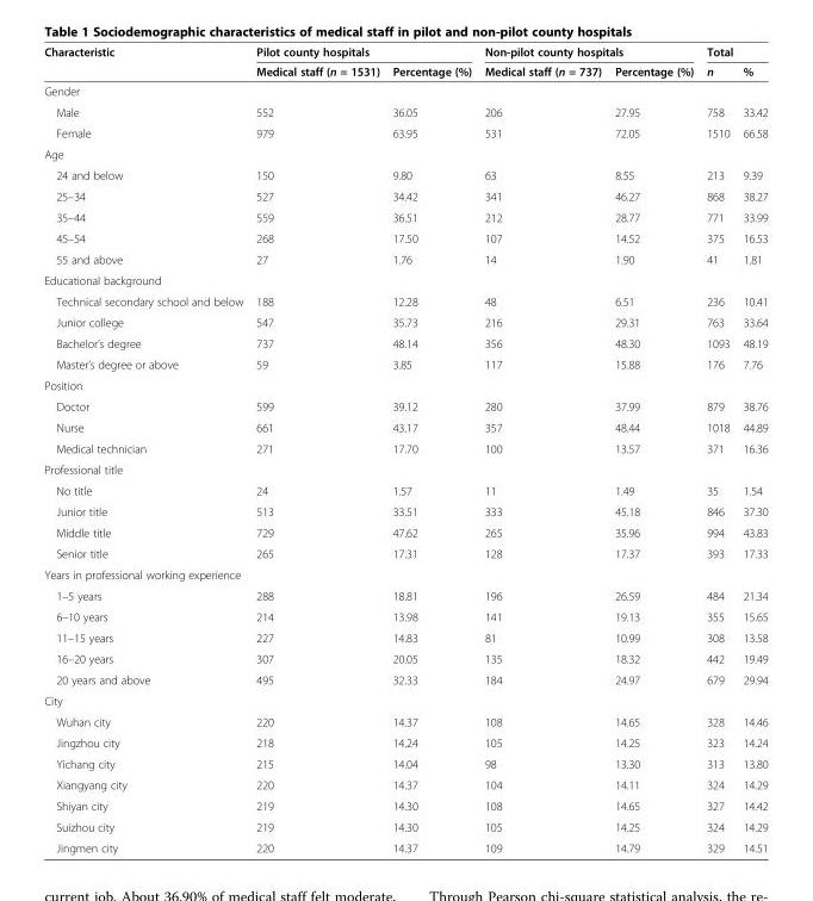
<table><thead><tr><td rowspan="2">Characteristic</td><td colspan="2">Pilot county hospitals</td><td colspan="2">Non-pilot county hospitals</td><td colspan="2">Total</td></tr><tr><td>Medical staff (n = 1531)</td><td>Percentage (%)</td><td>Medical staff (n = 737)</td><td>Percentage (%)</td><td>n</td><td>%</td></tr></thead><tbody><tr><td colspan="7">Gender</td></tr><tr><td>Male</td><td>552</td><td>36.05</td><td>206</td><td>27.95</td><td>758</td><td>33.42</td></tr><tr><td>Female</td><td>979</td><td>63.95</td><td>531</td><td>72.05</td><td>1510</td><td>66.58</td></tr><tr><td colspan="7">Age</td></tr><tr><td>24 and below</td><td>150</td><td>9.80</td><td>63</td><td>8.55</td><td>213</td><td>9.39</td></tr><tr><td>25–34</td><td>527</td><td>34.42</td><td>341</td><td>46.27</td><td>868</td><td>38.27</td></tr><tr><td>35–44</td><td>559</td><td>36.51</td><td>212</td><td>28.77</td><td>771</td><td>33.99</td></tr><tr><td>45–54</td><td>268</td><td>17.50</td><td>107</td><td>14.52</td><td>375</td><td>16.53</td></tr><tr><td>55 and above</td><td>27</td><td>1.76</td><td>14</td><td>1.90</td><td>41</td><td>1.81</td></tr><tr><td colspan="7">Educational background</td></tr><tr><td>Technical secondary school and below</td><td>188</td><td>12.28</td><td>48</td><td>6.51</td><td>236</td><td>10.41</td></tr><tr><td>Junior college</td><td>547</td><td>35.73</td><td>216</td><td>29.31</td><td>763</td><td>33.64</td></tr><tr><td>Bachelor’s degree</td><td>737</td><td>48.14</td><td>356</td><td>48.30</td><td>1093</td><td>48.19</td></tr><tr><td>Master’s degree or above</td><td>59</td><td>3.85</td><td>117</td><td>15.88</td><td>176</td><td>7.76</td></tr><tr><td colspan="7">Position</td></tr><tr><td>Doctor</td><td>599</td><td>39.12</td><td>280</td><td>37.99</td><td>879</td><td>38.76</td></tr><tr><td>Nurse</td><td>661</td><td>43.17</td><td>357</td><td>48.44</td><td>1018</td><td>44.89</td></tr><tr><td>Medical technician</td><td>271</td><td>17.70</td><td>100</td><td>13.57</td><td>371</td><td>16.36</td></tr><tr><td colspan="7">Professional title</td></tr><tr><td>No title</td><td>24</td><td>1.57</td><td>11</td><td>1.49</td><td>35</td><td>1.54</td></tr><tr><td>Junior title</td><td>513</td><td>33.51</td><td>333</td><td>45.18</td><td>846</td><td>37.30</td></tr><tr><td>Middle title</td><td>729</td><td>47.62</td><td>265</td><td>35.96</td><td>994</td><td>43.83</td></tr><tr><td>Senior title</td><td>265</td><td>17.31</td><td>128</td><td>17.37</td><td>393</td><td>17.33</td></tr><tr><td colspan="7">Years in professional working experience</td></tr><tr><td>1–5 years</td><td>288</td><td>18.81</td><td>196</td><td>26.59</td><td>484</td><td>21.34</td></tr><tr><td>6–10 years</td><td>214</td><td>13.98</td><td>141</td><td>19.13</td><td>355</td><td>15.65</td></tr><tr><td>11–15 years</td><td>227</td><td>14.83</td><td>81</td><td>10.99</td><td>308</td><td>13.58</td></tr><tr><td>16–20 years</td><td>307</td><td>20.05</td><td>135</td><td>18.32</td><td>442</td><td>19.49</td></tr><tr><td>20 years and above</td><td>495</td><td>32.33</td><td>184</td><td>24.97</td><td>679</td><td>29.94</td></tr><tr><td colspan="7">City</td></tr><tr><td>Wuhan city</td><td>220</td><td>14.37</td><td>108</td><td>14.65</td><td>328</td><td>14.46</td></tr><tr><td>Jingzhou city</td><td>218</td><td>14.24</td><td>105</td><td>14.25</td><td>323</td><td>14.24</td></tr><tr><td>Yichang city</td><td>215</td><td>14.04</td><td>98</td><td>13.30</td><td>313</td><td>13.80</td></tr><tr><td>Xiangyang city</td><td>220</td><td>14.37</td><td>104</td><td>14.11</td><td>324</td><td>14.29</td></tr><tr><td>Shiyan city</td><td>219</td><td>14.30</td><td>108</td><td>14.65</td><td>327</td><td>14.42</td></tr><tr><td>Suizhou city</td><td>219</td><td>14.30</td><td>105</td><td>14.25</td><td>324</td><td>14.29</td></tr><tr><td>Jingmen city</td><td>220</td><td>14.37</td><td>109</td><td>14.79</td><td>329</td><td>14.51</td></tr></tbody></table>